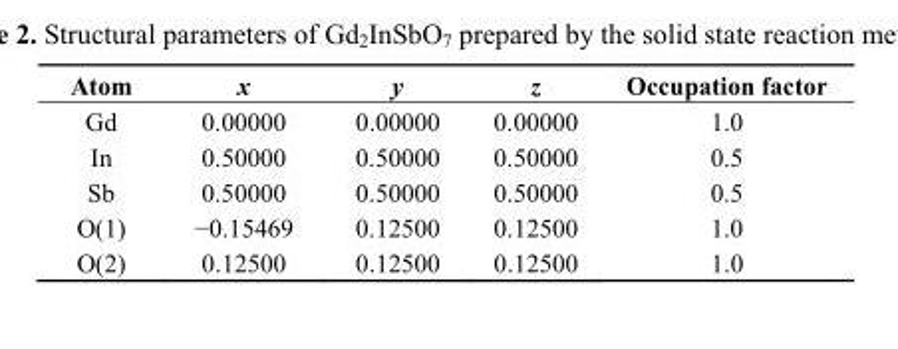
<table><thead><tr><td>Atom</td><td>x</td><td>y</td><td>z</td><td>Occupation factor</td></tr></thead><tbody><tr><td>Gd</td><td>0.00000</td><td>0.00000</td><td>0.00000</td><td>1.0</td></tr><tr><td>In</td><td>0.50000</td><td>0.50000</td><td>0.50000</td><td>0.5</td></tr><tr><td>Sb</td><td>0.50000</td><td>0.50000</td><td>0.50000</td><td>0.5</td></tr><tr><td>O(1)</td><td>−0.15469</td><td>0.12500</td><td>0.12500</td><td>1.0</td></tr><tr><td>O(2)</td><td>0.12500</td><td>0.12500</td><td>0.12500</td><td>1.0</td></tr></tbody></table>